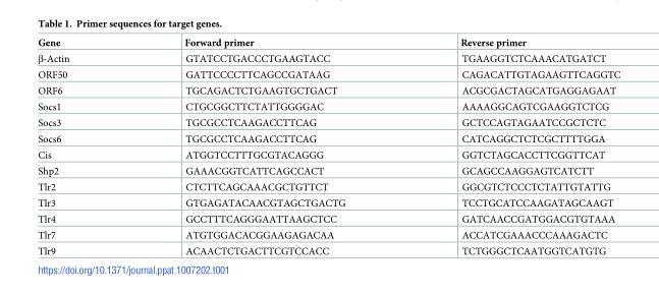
<table><thead><tr><td>Gene</td><td>Forward primer</td><td>Reverse primer</td></tr></thead><tbody><tr><td>β-Actin</td><td>GTATCCTGACCCTGAAGTACC</td><td>TGAAGGTCTCAAACATGATCT</td></tr><tr><td>ORF50</td><td>GATTCCCCTTCAGCCGATAAG</td><td>CAGACATTGTAGAAGTTCAGGTC</td></tr><tr><td>ORF6</td><td>TGCAGACTCTGAAGTGCTGACT</td><td>ACGCGACTAGCATGAGGAGAAT</td></tr><tr><td>Socs1</td><td>CTGCGGCTTCTATTGGGGAC</td><td>AAAAGGCAGTCGAAGGTCTCG</td></tr><tr><td>Socs3</td><td>TGCGCCTCAAGACCTTCAG</td><td>GCTCCAGTAGAATCCGCTCTC</td></tr><tr><td>Socs6</td><td>TGCGCCTCAAGACCTTCAG</td><td>CATCAGGCTCTCGCTTTTGGA</td></tr><tr><td>Cis</td><td>ATGGTCCTTTGCGTACAGGG</td><td>GGTCTAGCACCTTCGGTTCAT</td></tr><tr><td>Shp2</td><td>GAAACGGTCATTCAGCCACT</td><td>GCAGCCAAGGAGTCATCTT</td></tr><tr><td>Tlr2</td><td>CTCTTCAGCAAACGCTGTTCT</td><td>GGCGTCTCCCTCTATTGTATTG</td></tr><tr><td>Tlr3</td><td>GTGAGATACAACGTAGCTGACTG</td><td>TCCTGCATCCAAGATAGCAAGT</td></tr><tr><td>Tlr4</td><td>GCCTTTCAGGGAATTAAGCTCC</td><td>GATCAACCGATGGACGTGTAAA</td></tr><tr><td>Tlr7</td><td>ATGTGGACACGGAAGAGACAA</td><td>ACCATCGAAACCCAAAGACTC</td></tr><tr><td>Tlr9</td><td>ACAACTCTGACTTCGTCCACC</td><td>TCTGGGCTCAATGGTCATGTG</td></tr></tbody></table>